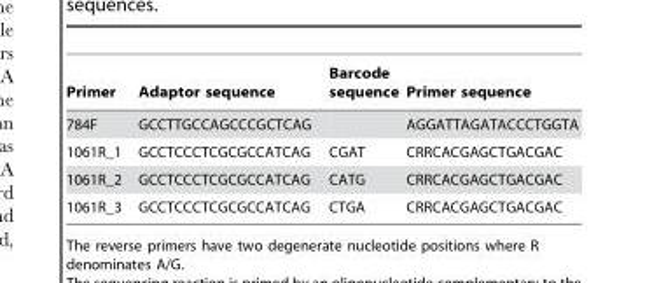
<table><thead><tr><td>Primer</td><td>Adaptor sequence</td><td>Barcode sequence</td><td>Primer sequence</td></tr></thead><tbody><tr><td>784F</td><td>GCCTTGCCAGCCCGCTCAG</td><td></td><td>AGGATTAGATACCCTGGTA</td></tr><tr><td>1061R_1</td><td>GCCTCCCTCGCGCCATCAG</td><td>CGAT</td><td>CRRCACGAGCTGACGAC</td></tr><tr><td>1061R_2</td><td>GCCTCCCTCGCGCCATCAG</td><td>CATG</td><td>CRRCACGAGCTGACGAC</td></tr><tr><td>1061R_3</td><td>GCCTCCCTCGCGCCATCAG</td><td>CTGA</td><td>CRRCACGAGCTGACGAC</td></tr></tbody></table>